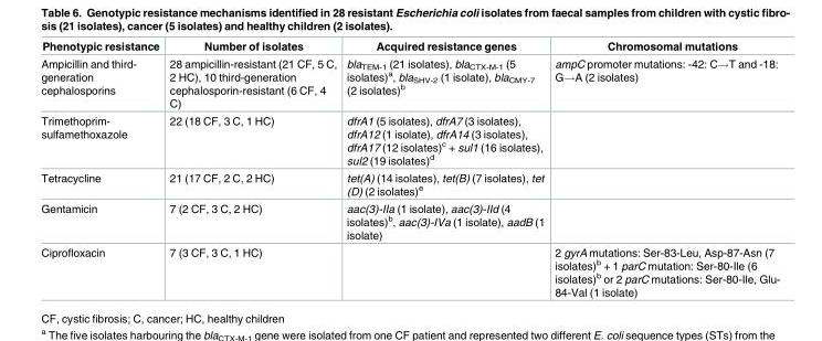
<table><thead><tr><td>Phenotypic resistance</td><td>Number of isolates</td><td>Acquired resistance genes</td><td>Chromosomal mutations</td></tr></thead><tbody><tr><td>Ampicillin and third- generation cephalosporins</td><td>28 ampicillin-resistant (21 CF, 5 C, 2 HC), 10 third-generation cephalosporin-resistant (6 CF, 4 C)</td><td>bla<sub>TEM-1</sub> (21 isolates), bla<sub>CTX-M-1</sub> (5 isolates)<sup>a</sup>, bla<sub>SHV-2</sub> (1 isolate), bla<sub>CMY-7</sub> (2 isolates)<sup>b</sup></td><td>ampC promoter mutations: -42: C→T and -18: G→A (2 isolates)</td></tr><tr><td>Trimethoprim- sulfamethoxazole</td><td>22 (18 CF, 3 C, 1 HC)</td><td>dfrA1 (5 isolates), dfrA7 (3 isolates), dfrA12 (1 isolate), dfrA14 (3 isolates), dfrA17 (12 isolates)<sup>c</sup> + sul1 (16 isolates), sul2 (19 isolates)<sup>d</sup></td><td></td></tr><tr><td>Tetracycline</td><td>21 (17 CF, 2 C, 2 HC)</td><td>tet(A) (14 isolates), tet(B) (7 isolates), tet (D) (2 isolates)<sup>e</sup></td><td></td></tr><tr><td>Gentamicin</td><td>7 (2 CF, 3 C, 2 HC)</td><td>aac(3)-IIa (1 isolate), aac(3)-IId (4 isolates)<sup>b</sup>, aac(3)-IVa (1 isolate), aadB (1 isolate)</td><td></td></tr><tr><td>Ciprofloxacin</td><td>7 (3 CF, 3 C, 1 HC)</td><td></td><td>2 gyrA mutations: Ser-83-Leu, Asp-87-Asn (7 isolates)<sup>b</sup> + 1 parC mutation: Ser-80-Ile (6 isolates)<sup>b</sup> or 2 parC mutations: Ser-80-Ile, Glu- 84-Val (1 isolate)</td></tr></tbody></table>